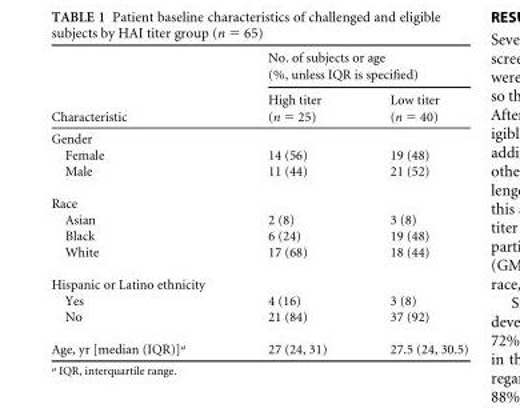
<table><thead><tr><td rowspan="2">Characteristic</td><td colspan="2">No. of subjects or age (%, unless IQR is specified)</td></tr><tr><td>High titer (n = 25)</td><td>Low titer (n = 40)</td></tr></thead><tbody><tr><td colspan="3">Gender</td></tr><tr><td>Female</td><td>14 (56)</td><td>19 (48)</td></tr><tr><td>Male</td><td>11 (44)</td><td>21 (52)</td></tr><tr><td colspan="3">Race</td></tr><tr><td>Asian</td><td>2 (8)</td><td>3 (8)</td></tr><tr><td>Black</td><td>6 (24)</td><td>19 (48)</td></tr><tr><td>White</td><td>17 (68)</td><td>18 (44)</td></tr><tr><td colspan="3">Hispanic or Latino ethnicity</td></tr><tr><td>Yes</td><td>4 (16)</td><td>3 (8)</td></tr><tr><td>No</td><td>21 (84)</td><td>37 (92)</td></tr><tr><td>Age, yr [median (IQR)]<sup>a</sup></td><td>27 (24, 31)</td><td>27.5 (24, 30.5)</td></tr></tbody></table>